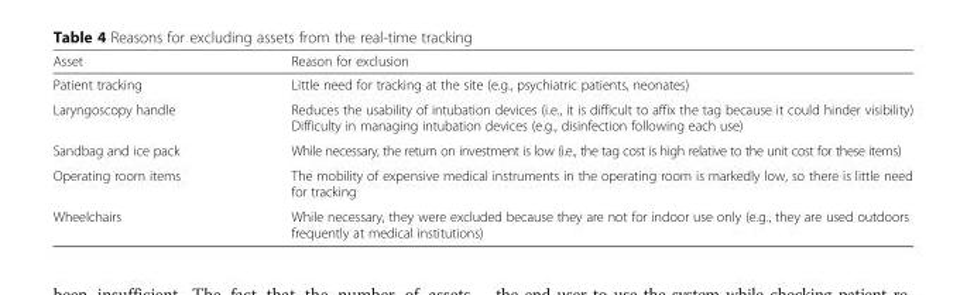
<table><thead><tr><td>Asset</td><td>Reason for exclusion</td></tr></thead><tbody><tr><td>Patient tracking</td><td>Little need for tracking at the site (e.g., psychiatric patients, neonates)</td></tr><tr><td>Laryngoscopy handle</td><td>Reduces the usability of intubation devices (i.e., it is difficult to affix the tag because it could hinder visibility) Difficulty in managing intubation devices (e.g., disinfection following each use)</td></tr><tr><td>Sandbag and ice pack</td><td>While necessary, the return on investment is low (i.e., the tag cost is high relative to the unit cost for these items)</td></tr><tr><td>Operating room items</td><td>The mobility of expensive medical instruments in the operating room is markedly low, so there is little need for tracking</td></tr><tr><td>Wheelchairs</td><td>While necessary, they were excluded because they are not for indoor use only (e.g., they are used outdoors frequently at medical institutions)</td></tr></tbody></table>